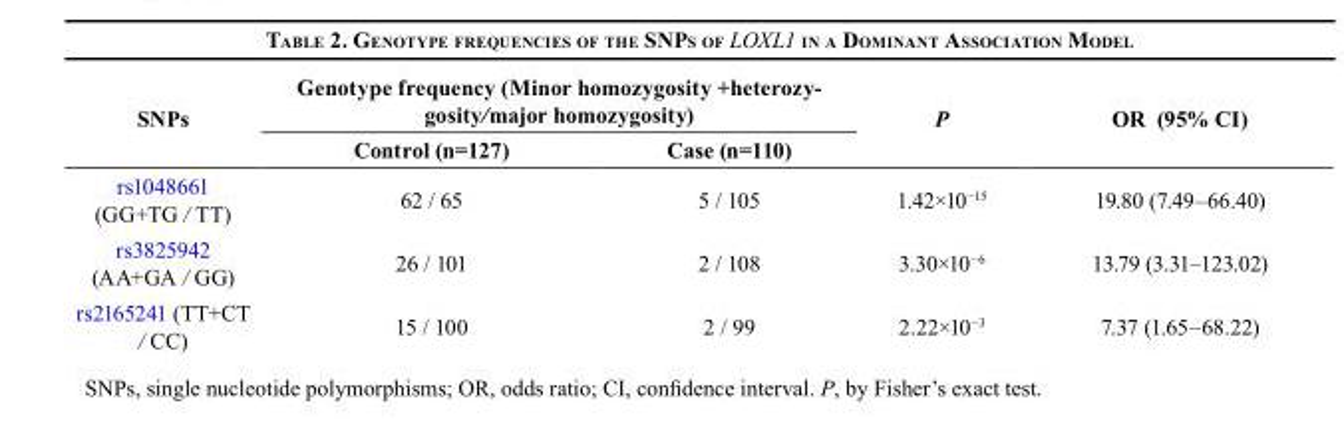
<table><thead><tr><td rowspan="2">SNPs</td><td colspan="2">Genotype frequency (Minor homozygosity +heterozy- gosity/major homozygosity)</td><td rowspan="2">P</td><td rowspan="2">OR (95% CI)</td></tr><tr><td>Control (n=127)</td><td>Case (n=110)</td></tr></thead><tbody><tr><td>rs1048661 (GG+TG / TT)</td><td>62 / 65</td><td>5 / 105</td><td>1.42×10<sup>−15</sup></td><td>19.80 (7.49–66.40)</td></tr><tr><td>rs3825942 (AA+GA / GG)</td><td>26 / 101</td><td>2 / 108</td><td>3.30×10<sup>−6</sup></td><td>13.79 (3.31–123.02)</td></tr><tr><td>rs2165241 (TT+CT / CC)</td><td>15 / 100</td><td>2 / 99</td><td>2.22×10<sup>−3</sup></td><td>7.37 (1.65–68.22)</td></tr></tbody></table>